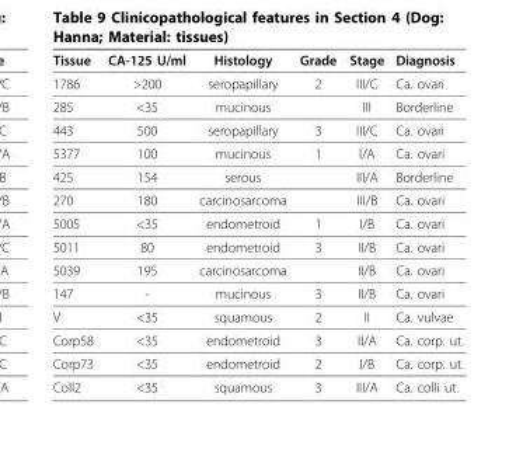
<table><thead><tr><td>Tissue</td><td>CA-125 U/ml</td><td>Histology</td><td>Grade</td><td>Stage</td><td>Diagnosis</td></tr></thead><tbody><tr><td>1786</td><td>&gt;200</td><td>seropapillary</td><td>2</td><td>III/C</td><td>Ca. ovari</td></tr><tr><td>285</td><td>&lt;35</td><td>mucinous</td><td></td><td>III</td><td>Borderline</td></tr><tr><td>443</td><td>500</td><td>seropapillary</td><td>3</td><td>III/C</td><td>Ca. ovari</td></tr><tr><td>5377</td><td>100</td><td>mucinous</td><td>1</td><td>I/A</td><td>Ca. ovari</td></tr><tr><td>425</td><td>154</td><td>serous</td><td></td><td>III/A</td><td>Borderline</td></tr><tr><td>270</td><td>180</td><td>carcinosarcoma</td><td></td><td>III/B</td><td>Ca. ovari</td></tr><tr><td>5005</td><td>&lt;35</td><td>endometroid</td><td>1</td><td>I/B</td><td>Ca. ovari</td></tr><tr><td>5011</td><td>80</td><td>endometroid</td><td>3</td><td>II/B</td><td>Ca. ovari</td></tr><tr><td>5039</td><td>195</td><td>carcinosarcoma</td><td></td><td>II/B</td><td>Ca. ovari</td></tr><tr><td>147</td><td>-</td><td>mucinous</td><td>3</td><td>II/B</td><td>Ca. ovari</td></tr><tr><td>V</td><td>&lt;35</td><td>squamous</td><td>2</td><td>II</td><td>Ca. vulvae</td></tr><tr><td>Corp58</td><td>&lt;35</td><td>endometroid</td><td>3</td><td>II/A</td><td>Ca. corp. ut.</td></tr><tr><td>Corp73</td><td>&lt;35</td><td>endometroid</td><td>2</td><td>I/B</td><td>Ca. corp. ut.</td></tr><tr><td>Coll2</td><td>&lt;35</td><td>squamous</td><td>3</td><td>III/A</td><td>Ca. colli ut.</td></tr></tbody></table>